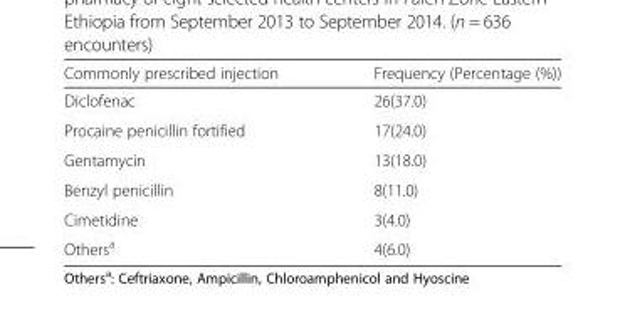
<table><thead><tr><td>Commonly prescribed injection</td><td>Frequency (Percentage (%))</td></tr></thead><tbody><tr><td>Diclofenac</td><td>26(37.0)</td></tr><tr><td>Procaine penicillin fortified</td><td>17(24.0)</td></tr><tr><td>Gentamycin</td><td>13(18.0)</td></tr><tr><td>Benzyl penicillin</td><td>8(11.0)</td></tr><tr><td>Cimetidine</td><td>3(4.0)</td></tr><tr><td>Others<sup>a</sup></td><td>4(6.0)</td></tr></tbody></table>